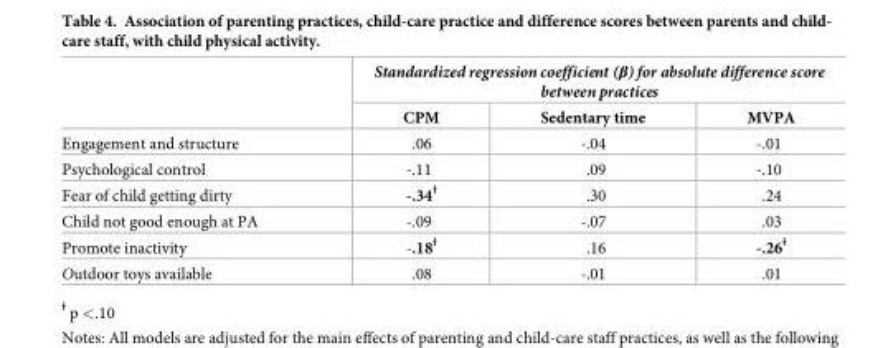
<table><thead><tr><td rowspan="2"></td><td colspan="3">Standardized regression coefficient (β) for absolute difference score between practices</td></tr><tr><td>CPM</td><td>Sedentary time</td><td>MVPA</td></tr></thead><tbody><tr><td>Engagement and structure</td><td>.06</td><td>-.04</td><td>-.01</td></tr><tr><td>Psychological control</td><td>-.11</td><td>.09</td><td>-.10</td></tr><tr><td>Fear of child getting dirty</td><td>-.34<sup>Ɨ</sup></td><td>.30</td><td>.24</td></tr><tr><td>Child not good enough at PA</td><td>-.09</td><td>-.07</td><td>.03</td></tr><tr><td>Promote inactivity</td><td>-.18<sup>Ɨ</sup></td><td>.16</td><td>-.26<sup>Ɨ</sup></td></tr><tr><td>Outdoor toys available</td><td>.08</td><td>-.01</td><td>.01</td></tr></tbody></table>